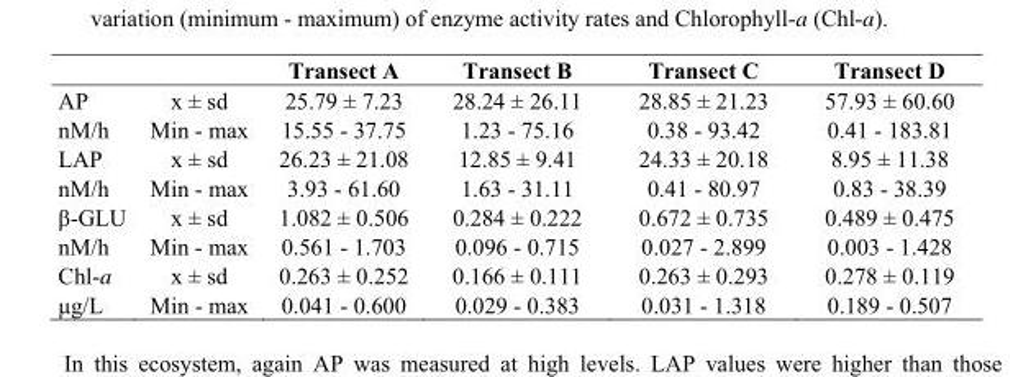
<table><thead><tr><td></td><td></td><td>Transect A</td><td>Transect B</td><td>Transect C</td><td>Transect D</td></tr></thead><tbody><tr><td>AP</td><td>x ± sd</td><td>25.79 ± 7.23</td><td>28.24 ± 26.11</td><td>28.85 ± 21.23</td><td>57.93 ± 60.60</td></tr><tr><td>nM/h</td><td>Min - max</td><td>15.55 - 37.75</td><td>1.23 - 75.16</td><td>0.38 - 93.42</td><td>0.41 - 183.81</td></tr><tr><td>LAP</td><td>x ± sd</td><td>26.23 ± 21.08</td><td>12.85 ± 9.41</td><td>24.33 ± 20.18</td><td>8.95 ± 11.38</td></tr><tr><td>nM/h</td><td>Min - max</td><td>3.93 - 61.60</td><td>1.63 - 31.11</td><td>0.41 - 80.97</td><td>0.83 - 38.39</td></tr><tr><td>β-GLU</td><td>x ± sd</td><td>1.082 ± 0.506</td><td>0.284 ± 0.222</td><td>0.672 ± 0.735</td><td>0.489 ± 0.475</td></tr><tr><td>nM/h</td><td>Min - max</td><td>0.561 - 1.703</td><td>0.096 - 0.715</td><td>0.027 - 2.899</td><td>0.003 - 1.428</td></tr><tr><td>Chl-a</td><td>x ± sd</td><td>0.263 ± 0.252</td><td>0.166 ± 0.111</td><td>0.263 ± 0.293</td><td>0.278 ± 0.119</td></tr><tr><td>μg/L</td><td>Min - max</td><td>0.041 - 0.600</td><td>0.029 - 0.383</td><td>0.031 - 1.318</td><td>0.189 - 0.507</td></tr></tbody></table>